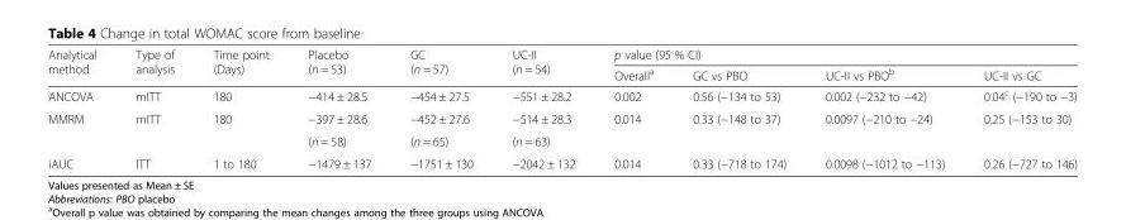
<table><thead><tr><td rowspan="2">Analytical method</td><td rowspan="2">Type of analysis</td><td rowspan="2">Time point (Days)</td><td rowspan="2">Placebo (n = 53)</td><td rowspan="2">GC (n = 57)</td><td rowspan="2">UC-II (n = 54)</td><td colspan="4">p value (95 % CI)</td></tr><tr><td>Overall<sup>a</sup></td><td>GC vs PBO</td><td>UC-II vs PBO<sup>b</sup></td><td>UC-II vs GC</td></tr></thead><tbody><tr><td>ANCOVA</td><td>mITT</td><td>180</td><td>−414 ± 28.5</td><td>−454 ± 27.5</td><td>−551 ± 28.2</td><td>0.002</td><td>0.56 (−134 to 53)</td><td>0.002 (−232 to −42)</td><td>0.04<sup>c</sup> (−190 to −3)</td></tr><tr><td rowspan="2">MMRM</td><td>mITT</td><td>180</td><td>−397 ± 28.6</td><td>−452 ± 27.6</td><td>−514 ± 28.3</td><td>0.014</td><td>0.33 (−148 to 37)</td><td>0.0097 (−210 to −24)</td><td>0.25 (−153 to 30)</td></tr><tr><td></td><td></td><td>(n = 58)</td><td>(n = 65)</td><td>(n = 63)</td><td></td><td></td><td></td><td></td></tr><tr><td>iAUC</td><td>ITT</td><td>1 to 180</td><td>−1479 ± 137</td><td>−1751 ± 130</td><td>−2042 ± 132</td><td>0.014</td><td>0.33 (−718 to 174)</td><td>0.0098 (−1012 to −113)</td><td>0.26 (−727 to 146)</td></tr></tbody></table>